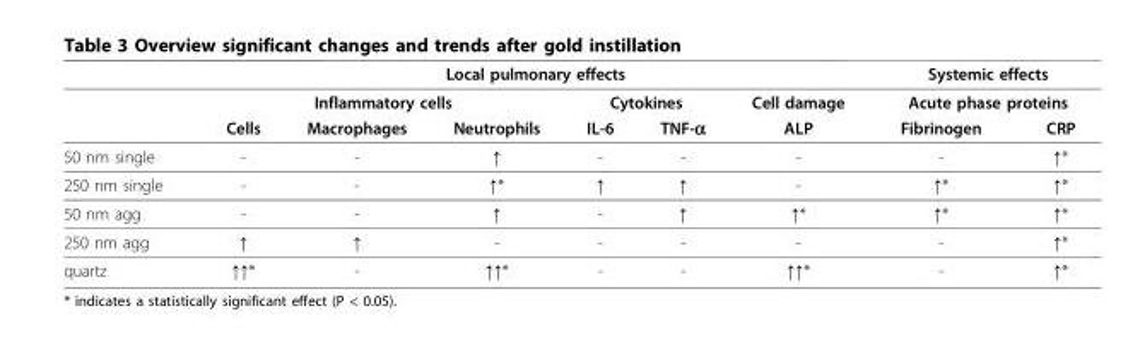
<table><thead><tr><td rowspan="3"></td><td colspan="6">Local pulmonary effects</td><td rowspan="2" colspan="2">Systemic effects Acute phase proteins</td></tr><tr><td colspan="3">Inflammatory cells</td><td colspan="2">Cytokines</td><td rowspan="2">Cell damage ALP</td></tr><tr><td>Cells</td><td>Macrophages</td><td>Neutrophils</td><td>IL-6</td><td>TNF-α</td><td>Fibrinogen</td><td>CRP</td></tr></thead><tbody><tr><td>50 nm single</td><td>-</td><td>-</td><td>↑</td><td>-</td><td>-</td><td>-</td><td>-</td><td>↑*</td></tr><tr><td>250 nm single</td><td>-</td><td>-</td><td>↑*</td><td>↑</td><td>↑</td><td>-</td><td>↑*</td><td>↑*</td></tr><tr><td>50 nm agg</td><td>-</td><td>-</td><td>↑</td><td>-</td><td>↑</td><td>↑*</td><td>↑*</td><td>↑*</td></tr><tr><td>250 nm agg</td><td>↑</td><td>↑</td><td>-</td><td>-</td><td>-</td><td>-</td><td>-</td><td>↑*</td></tr><tr><td>quartz</td><td>↑↑*</td><td>-</td><td>↑↑*</td><td>-</td><td>-</td><td>↑↑*</td><td>-</td><td>↑*</td></tr></tbody></table>